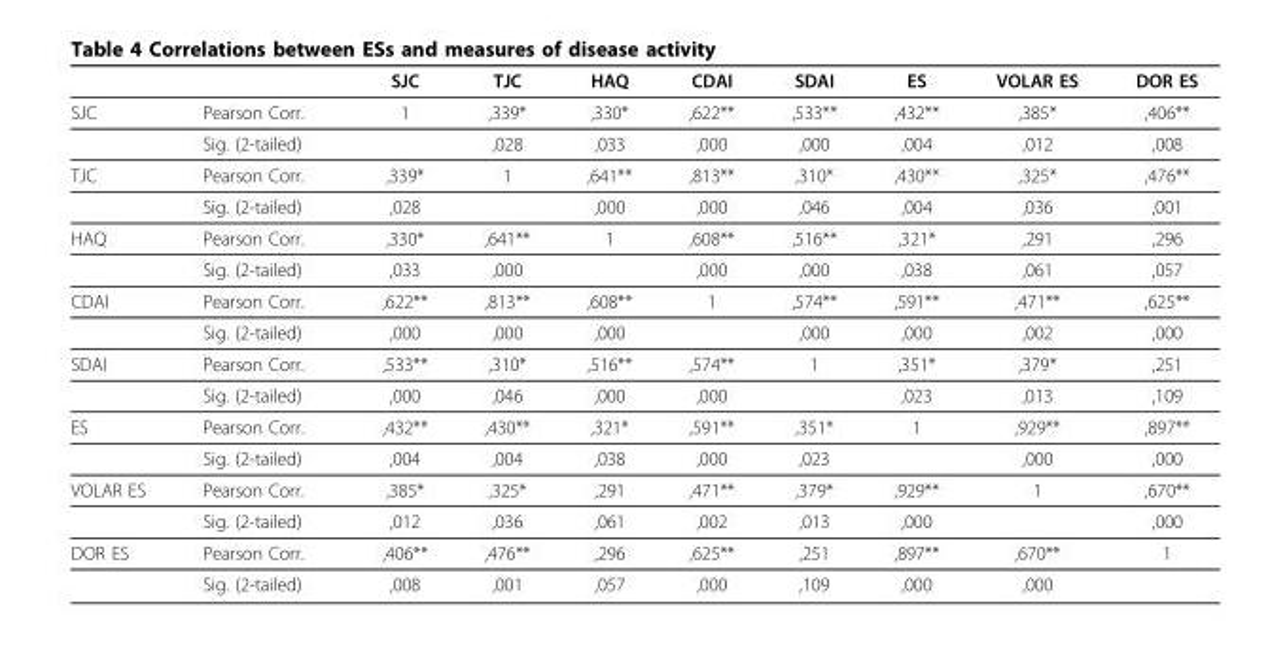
<table><thead><tr><td></td><td></td><td>SJC</td><td>TJC</td><td>HAQ</td><td>CDAI</td><td>SDAI</td><td>ES</td><td>VOLAR ES</td><td>DOR ES</td></tr></thead><tbody><tr><td rowspan="2">SJC</td><td>Pearson Corr.</td><td>1</td><td>,339*</td><td>,330*</td><td>,622**</td><td>,533**</td><td>,432**</td><td>,385*</td><td>,406**</td></tr><tr><td>Sig. (2-tailed)</td><td></td><td>,028</td><td>,033</td><td>,000</td><td>,000</td><td>,004</td><td>,012</td><td>,008</td></tr><tr><td rowspan="2">TJC</td><td>Pearson Corr.</td><td>,339*</td><td>1</td><td>,641**</td><td>,813**</td><td>,310*</td><td>,430**</td><td>,325*</td><td>,476**</td></tr><tr><td>Sig. (2-tailed)</td><td>,028</td><td></td><td>,000</td><td>,000</td><td>,046</td><td>,004</td><td>,036</td><td>,001</td></tr><tr><td rowspan="2">HAQ</td><td>Pearson Corr.</td><td>,330*</td><td>,641**</td><td>1</td><td>,608**</td><td>,516**</td><td>,321*</td><td>,291</td><td>,296</td></tr><tr><td>Sig. (2-tailed)</td><td>,033</td><td>,000</td><td></td><td>,000</td><td>,000</td><td>,038</td><td>,061</td><td>,057</td></tr><tr><td rowspan="2">CDAI</td><td>Pearson Corr.</td><td>,622**</td><td>,813**</td><td>,608**</td><td>1</td><td>,574**</td><td>,591**</td><td>,471**</td><td>,625**</td></tr><tr><td>Sig. (2-tailed)</td><td>,000</td><td>,000</td><td>,000</td><td></td><td>,000</td><td>,000</td><td>,002</td><td>,000</td></tr><tr><td rowspan="2">SDAI</td><td>Pearson Corr.</td><td>,533**</td><td>,310*</td><td>,516**</td><td>,574**</td><td>1</td><td>,351*</td><td>,379*</td><td>,251</td></tr><tr><td>Sig. (2-tailed)</td><td>,000</td><td>,046</td><td>,000</td><td>,000</td><td></td><td>,023</td><td>,013</td><td>,109</td></tr><tr><td rowspan="2">ES</td><td>Pearson Corr.</td><td>,432**</td><td>,430**</td><td>,321*</td><td>,591**</td><td>,351*</td><td>1</td><td>,929**</td><td>,897**</td></tr><tr><td>Sig. (2-tailed)</td><td>,004</td><td>,004</td><td>,038</td><td>,000</td><td>,023</td><td></td><td>,000</td><td>,000</td></tr><tr><td rowspan="2">VOLAR ES</td><td>Pearson Corr.</td><td>,385*</td><td>,325*</td><td>,291</td><td>,471**</td><td>,379*</td><td>,929**</td><td>1</td><td>,670**</td></tr><tr><td>Sig. (2-tailed)</td><td>,012</td><td>,036</td><td>,061</td><td>,002</td><td>,013</td><td>,000</td><td></td><td>,000</td></tr><tr><td rowspan="2">DOR ES</td><td>Pearson Corr.</td><td>,406**</td><td>,476**</td><td>,296</td><td>,625**</td><td>,251</td><td>,897**</td><td>,670**</td><td>1</td></tr><tr><td>Sig. (2-tailed)</td><td>,008</td><td>,001</td><td>,057</td><td>,000</td><td>,109</td><td>,000</td><td>,000</td><td></td></tr></tbody></table>